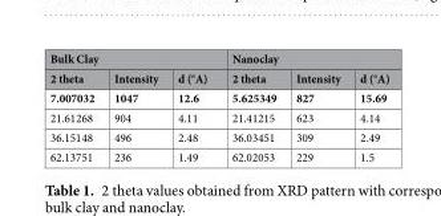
<table><thead><tr><td colspan="3">Bulk Clay</td><td colspan="3">Nanoclay</td></tr><tr><td>2 theta</td><td>Intensity</td><td>d (°A)</td><td>2 theta</td><td>Intensity</td><td>d (°A)</td></tr></thead><tbody><tr><td>7.007032</td><td>1047</td><td>12.6</td><td>5.625349</td><td>827</td><td>15.69</td></tr><tr><td>21.61268</td><td>904</td><td>4.11</td><td>21.41215</td><td>623</td><td>4.14</td></tr><tr><td>36.15148</td><td>496</td><td>2.48</td><td>36.03451</td><td>309</td><td>2.49</td></tr><tr><td>62.13751</td><td>236</td><td>1.49</td><td>62.02053</td><td>229</td><td>1.5</td></tr></tbody></table>